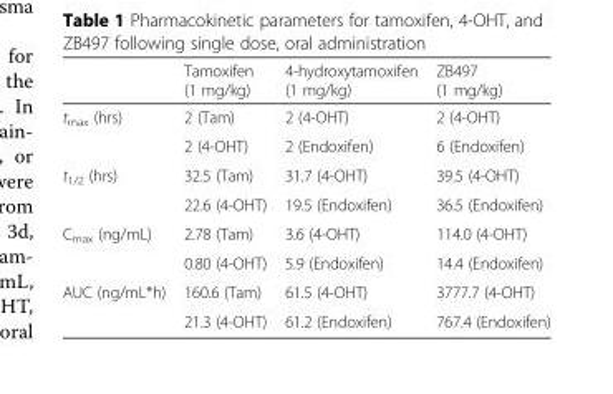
<table><thead><tr><td></td><td>Tamoxifen (1 mg/kg)</td><td>4-hydroxytamoxifen (1 mg/kg)</td><td>ZB497 (1 mg/kg)</td></tr></thead><tbody><tr><td rowspan="2">t<sub>max</sub> (hrs)</td><td>2 (Tam)</td><td>2 (4-OHT)</td><td>2 (4-OHT)</td></tr><tr><td>2 (4-OHT)</td><td>2 (Endoxifen)</td><td>6 (Endoxifen)</td></tr><tr><td rowspan="2">t<sub>1/2</sub> (hrs)</td><td>32.5 (Tam)</td><td>31.7 (4-OHT)</td><td>39.5 (4-OHT)</td></tr><tr><td>22.6 (4-OHT)</td><td>19.5 (Endoxifen)</td><td>36.5 (Endoxifen)</td></tr><tr><td rowspan="2">C<sub>max</sub> (ng/mL)</td><td>2.78 (Tam)</td><td>3.6 (4-OHT)</td><td>114.0 (4-OHT)</td></tr><tr><td>0.80 (4-OHT)</td><td>5.9 (Endoxifen)</td><td>14.4 (Endoxifen)</td></tr><tr><td rowspan="2">AUC (ng/mL*h)</td><td>160.6 (Tam)</td><td>61.5 (4-OHT)</td><td>3777.7 (4-OHT)</td></tr><tr><td>21.3 (4-OHT)</td><td>61.2 (Endoxifen)</td><td>767.4 (Endoxifen)</td></tr></tbody></table>